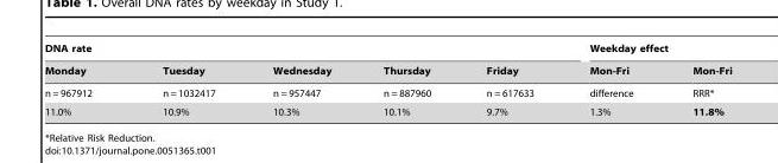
<table><thead><tr><td colspan="5">DNA rate</td><td colspan="2">Weekday effect</td></tr><tr><td>Monday</td><td>Tuesday</td><td>Wednesday</td><td>Thursday</td><td>Friday</td><td>Mon-Fri</td><td>Mon-Fri</td></tr></thead><tbody><tr><td>n = 967912</td><td>n = 1032417</td><td>n = 957447</td><td>n = 887960</td><td>n = 617633</td><td>difference</td><td>RRR*</td></tr><tr><td>11.0%</td><td>10.9%</td><td>10.3%</td><td>10.1%</td><td>9.7%</td><td>1.3%</td><td>11.8%</td></tr></tbody></table>